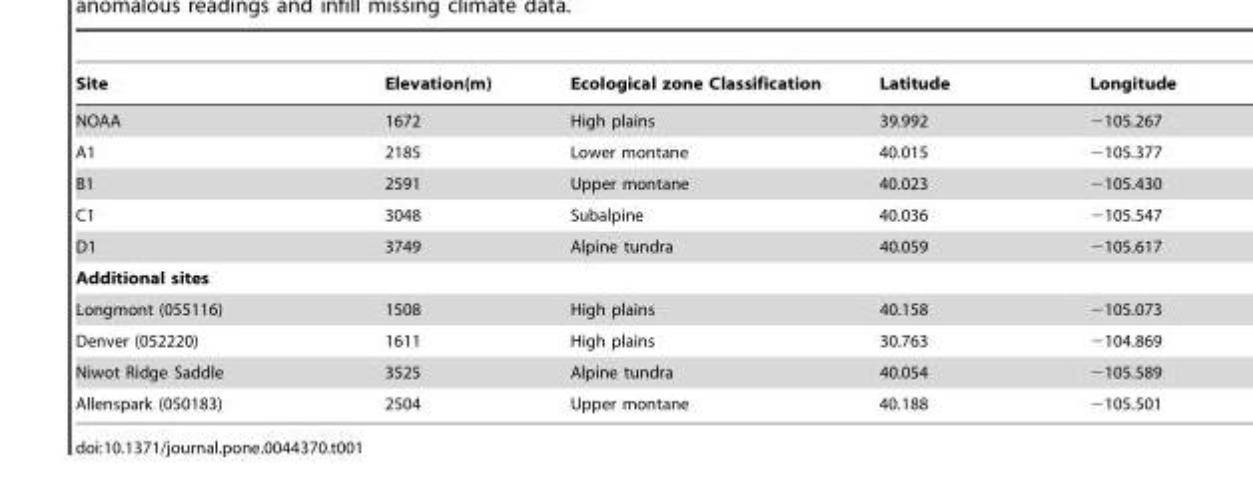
<table><thead><tr><td>Site</td><td>Elevation(m)</td><td>Ecological zone Classification</td><td>Latitude</td><td>Longitude</td></tr></thead><tbody><tr><td>NOAA</td><td>1672</td><td>High plains</td><td>39.992</td><td>−105.267</td></tr><tr><td>A1</td><td>2185</td><td>Lower montane</td><td>40.015</td><td>−105.377</td></tr><tr><td>B1</td><td>2591</td><td>Upper montane</td><td>40.023</td><td>−105.430</td></tr><tr><td>C1</td><td>3048</td><td>Subalpine</td><td>40.036</td><td>−105.547</td></tr><tr><td>D1</td><td>3749</td><td>Alpine tundra</td><td>40.059</td><td>−105.617</td></tr><tr><td colspan="5">Additional sites</td></tr><tr><td>Longmont (055116)</td><td>1508</td><td>High plains</td><td>40.158</td><td>−105.073</td></tr><tr><td>Denver (052220)</td><td>1611</td><td>High plains</td><td>30.763</td><td>−104.869</td></tr><tr><td>Niwot Ridge Saddle</td><td>3525</td><td>Alpine tundra</td><td>40.054</td><td>−105.589</td></tr><tr><td>Allenspark (050183)</td><td>2504</td><td>Upper montane</td><td>40.188</td><td>−105.501</td></tr></tbody></table>